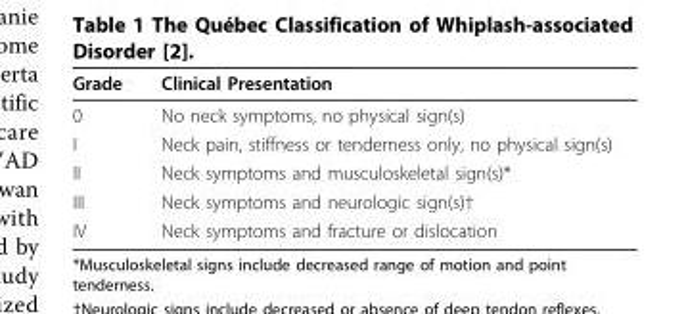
<table><thead><tr><td>Grade</td><td>Clinical Presentation</td></tr></thead><tbody><tr><td>0</td><td>No neck symptoms, no physical sign(s)</td></tr><tr><td>I</td><td>Neck pain, stiffness or tenderness only, no physical sign(s)</td></tr><tr><td>II</td><td>Neck symptoms and musculoskeletal sign(s)*</td></tr><tr><td>III</td><td>Neck symptoms and neurologic sign(s)†</td></tr><tr><td>IV</td><td>Neck symptoms and fracture or dislocation</td></tr></tbody></table>